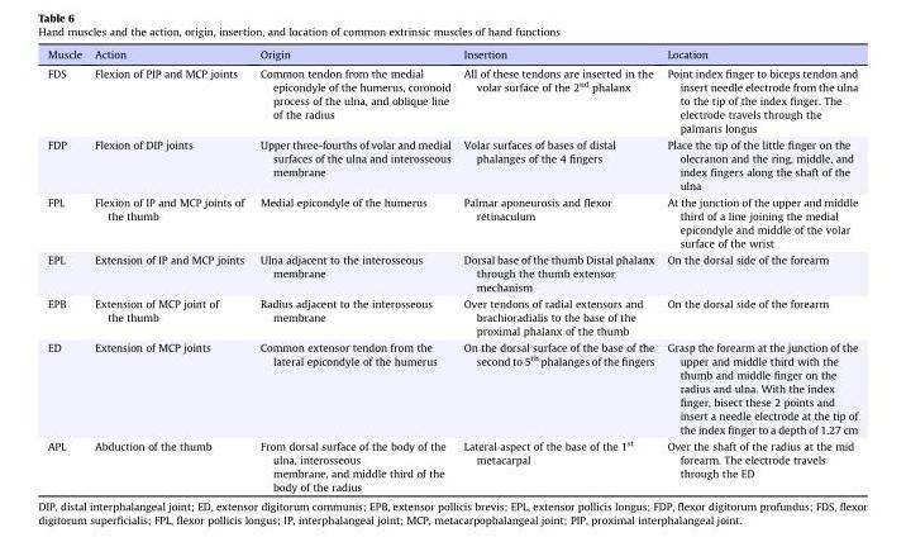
<table><thead><tr><td>Muscle</td><td>Action</td><td>Origin</td><td>Insertion</td><td>Location</td></tr></thead><tbody><tr><td>FDS</td><td>Flexion of PIP and MCP joints</td><td>Common tendon from the medial epicondyle of the humerus, coronoid process of the ulna, and oblique line of the radius</td><td>All of these tendons are inserted in the volar surface of the 2<sup>nd</sup> phalanx</td><td>Point index finger to biceps tendon and insert needle electrode from the ulna to the tip of the index finger. The electrode travels through the palmaris longus</td></tr><tr><td>FDP</td><td>Flexion of DIP joints</td><td>Upper three-fourths of volar and medial surfaces of the ulna and interosseous membrane</td><td>Volar surfaces of bases of distal phalanges of the 4 fingers</td><td>Place the tip of the little finger on the olecranon and the ring, middle, and index fingers along the shaft of the ulna</td></tr><tr><td>FPL</td><td>Flexion of IP and MCP joints of the thumb</td><td>Medial epicondyle of the humerus</td><td>Palmar aponeurosis and flexor retinaculum</td><td>At the junction of the upper and middle third of a line joining the medial epicondyle and middle of the volar surface of the wrist</td></tr><tr><td>EPL</td><td>Extension of IP and MCP joints</td><td>Ulna adjacent to the interosseous membrane</td><td>Dorsal base of the thumb Distal phalanx through the thumb extensor mechanism</td><td>On the dorsal side of the forearm</td></tr><tr><td>EPB</td><td>Extension of MCP joint of the thumb</td><td>Radius adjacent to the interosseous membrane</td><td>Over tendons of radial extensors and brachioradialis to the base of the proximal phalanx of the thumb</td><td>On the dorsal side of the forearm</td></tr><tr><td>ED</td><td>Extension of MCP joints</td><td>Common extensor tendon from the lateral epicondyle of the humerus</td><td>On the dorsal surface of the base of the second to 5<sup>th</sup> phalanges of the fingers</td><td>Grasp the forearm at the junction of the upper and middle third with the thumb and middle finger on the radius and ulna. With the index finger, bisect these 2 points and insert a needle electrode at the tip of the index finger to a depth of 1.27 cm</td></tr><tr><td>APL</td><td>Abduction of the thumb</td><td>From dorsal surface of the body of the ulna, interosseous membrane, and middle third of the body of the radius</td><td>Lateral aspect of the base of the 1<sup>st</sup> metacarpal</td><td>Over the shaft of the radius at the mid forearm. The electrode travels through the ED</td></tr></tbody></table>